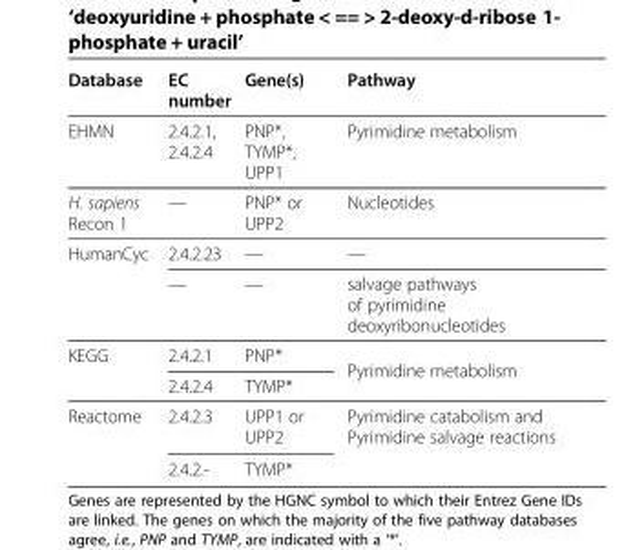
<table><thead><tr><td>Database</td><td>EC number</td><td>Gene(s)</td><td>Pathway</td></tr></thead><tbody><tr><td>EHMN</td><td>2.4.2.1, 2.4.2.4</td><td>PNP*, TYMP*, UPP1</td><td>Pyrimidine metabolism</td></tr><tr><td>H. sapiens Recon 1</td><td>—</td><td>PNP* or UPP2</td><td>Nucleotides</td></tr><tr><td rowspan="2">HumanCyc</td><td>2.4.2.23</td><td>—</td><td>—</td></tr><tr><td>—</td><td>—</td><td>salvage pathways of pyrimidine deoxyribonucleotides</td></tr><tr><td rowspan="2">KEGG</td><td>2.4.2.1</td><td>PNP*</td><td rowspan="2">Pyrimidine metabolism</td></tr><tr><td>2.4.2.4</td><td>TYMP*</td></tr><tr><td rowspan="2">Reactome</td><td>2.4.2.3</td><td>UPP1 or UPP2</td><td>Pyrimidine catabolism and Pyrimidine salvage reactions</td></tr><tr><td>2.4.2.-</td><td>TYMP*</td><td></td></tr></tbody></table>